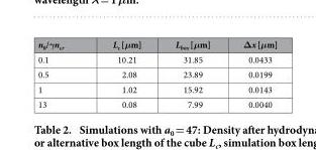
<table><thead><tr><td>n<sub>0</sub>/γn<sub>cr</sub></td><td>L<sub>c</sub> [μm]</td><td>L<sub>box</sub> [μm]</td><td>Δx [μm]</td></tr></thead><tbody><tr><td>0.1</td><td>10.21</td><td>31.85</td><td>0.0433</td></tr><tr><td>0.5</td><td>2.08</td><td>23.89</td><td>0.0199</td></tr><tr><td>1</td><td>1.02</td><td>15.92</td><td>0.0143</td></tr><tr><td>13</td><td>0.08</td><td>7.99</td><td>0.0040</td></tr></tbody></table>